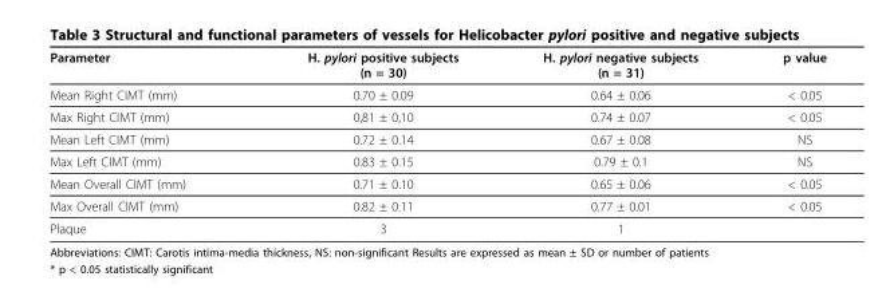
<table><thead><tr><td>Parameter</td><td>H. pylori positive subjects (n = 30)</td><td>H. pylori negative subjects (n = 31)</td><td>p value</td></tr></thead><tbody><tr><td>Mean Right CIMT (mm)</td><td>0.70 ± 0.09</td><td>0.64 ± 0.06</td><td>&lt; 0.05</td></tr><tr><td>Max Right CIMT (mm)</td><td>0,81 ± 0,10</td><td>0.74 ± 0.07</td><td>&lt; 0.05</td></tr><tr><td>Mean Left CIMT (mm)</td><td>0.72 ± 0.14</td><td>0.67 ± 0.08</td><td>NS</td></tr><tr><td>Max Left CIMT (mm)</td><td>0.83 ± 0.15</td><td>0.79 ± 0.1</td><td>NS</td></tr><tr><td>Mean Overall CIMT (mm)</td><td>0.71 ± 0.10</td><td>0.65 ± 0.06</td><td>&lt; 0.05</td></tr><tr><td>Max Overall CIMT (mm)</td><td>0.82 ± 0.11</td><td>0.77 ± 0.01</td><td>&lt; 0.05</td></tr><tr><td>Plaque</td><td>3</td><td>1</td><td></td></tr></tbody></table>